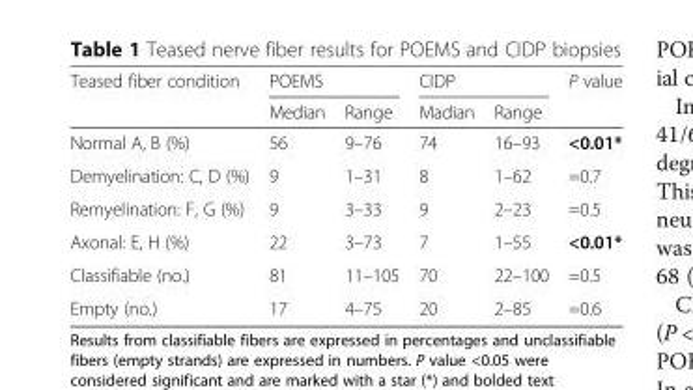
<table><thead><tr><td rowspan="2">Teased fiber condition</td><td colspan="2">POEMS</td><td colspan="2">CIDP</td><td rowspan="2">P value</td></tr><tr><td>Median</td><td>Range</td><td>Madian</td><td>Range</td></tr></thead><tbody><tr><td>Normal A, B (%)</td><td>56</td><td>9–76</td><td>74</td><td>16–93</td><td>&lt;0.01*</td></tr><tr><td>Demyelination: C, D (%)</td><td>9</td><td>1–31</td><td>8</td><td>1–62</td><td>=0.7</td></tr><tr><td>Remyelination: F, G (%)</td><td>9</td><td>3–33</td><td>9</td><td>2–23</td><td>=0.5</td></tr><tr><td>Axonal: E, H (%)</td><td>22</td><td>3–73</td><td>7</td><td>1–55</td><td>&lt;0.01*</td></tr><tr><td>Classifiable (no.)</td><td>81</td><td>11–105</td><td>70</td><td>22–100</td><td>=0.5</td></tr><tr><td>Empty (no.)</td><td>17</td><td>4–75</td><td>20</td><td>2–85</td><td>=0.6</td></tr></tbody></table>